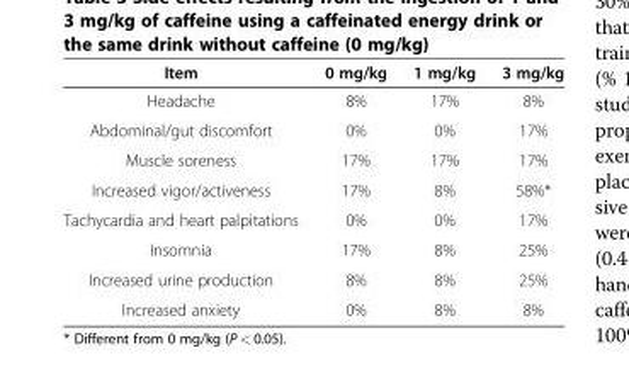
<table><thead><tr><td>Item</td><td>0 mg/kg</td><td>1 mg/kg</td><td>3 mg/kg</td></tr></thead><tbody><tr><td>Headache</td><td>8%</td><td>17%</td><td>8%</td></tr><tr><td>Abdominal/gut discomfort</td><td>0%</td><td>0%</td><td>17%</td></tr><tr><td>Muscle soreness</td><td>17%</td><td>17%</td><td>17%</td></tr><tr><td>Increased vigor/activeness</td><td>17%</td><td>8%</td><td>58%*</td></tr><tr><td>Tachycardia and heart palpitations</td><td>0%</td><td>0%</td><td>17%</td></tr><tr><td>Insomnia</td><td>17%</td><td>8%</td><td>25%</td></tr><tr><td>Increased urine production</td><td>8%</td><td>8%</td><td>25%</td></tr><tr><td>Increased anxiety</td><td>0%</td><td>8%</td><td>8%</td></tr></tbody></table>